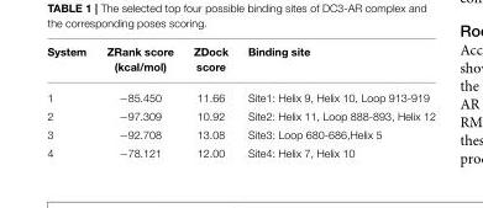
<table><thead><tr><td>System</td><td>ZRank score (kcal/mol)</td><td>ZDock score</td><td>Binding site</td></tr></thead><tbody><tr><td>1</td><td>−85.450</td><td>11.66</td><td>Site1: Helix 9, Helix 10, Loop 913-919</td></tr><tr><td>2</td><td>−97.309</td><td>10.92</td><td>Site2: Helix 11, Loop 888-893, Helix 12</td></tr><tr><td>3</td><td>−92.708</td><td>13.08</td><td>Site3: Loop 680-686,Helix 5</td></tr><tr><td>4</td><td>−78.121</td><td>12.00</td><td>Site4: Helix 7, Helix 10</td></tr></tbody></table>